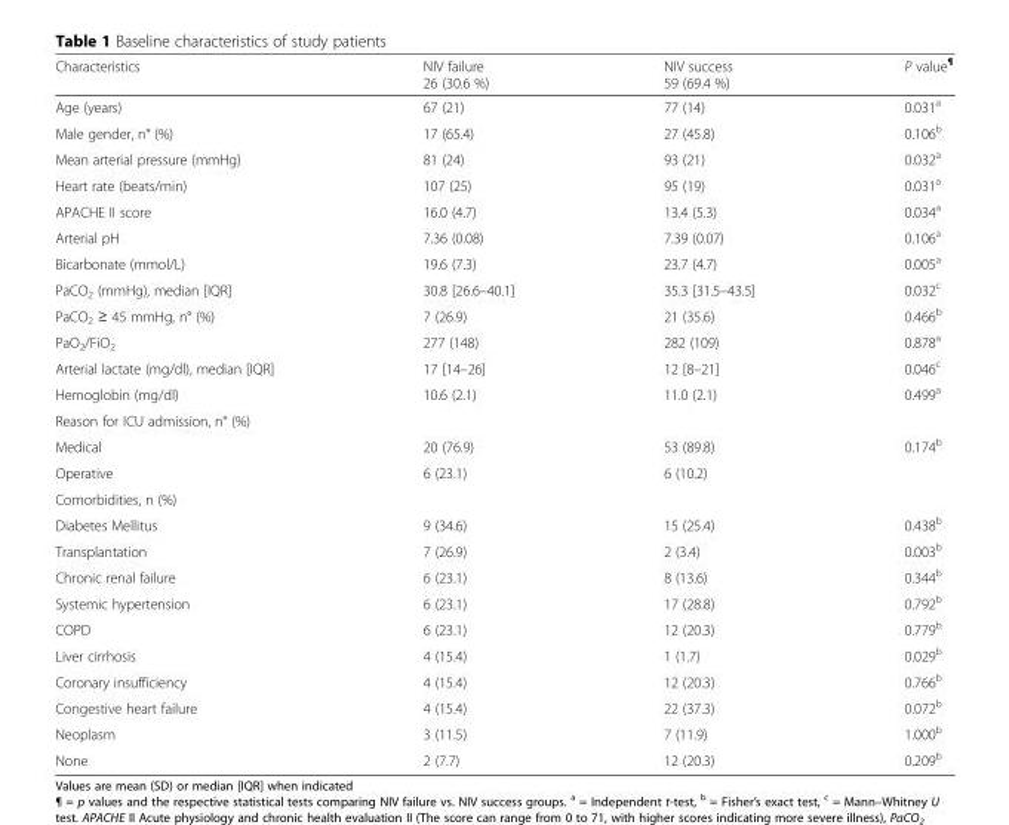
<table><thead><tr><td>Characteristics</td><td>NIV failure 26 (30.6 %)</td><td>NIV success 59 (69.4 %)</td><td>P value<sup>¶</sup></td></tr></thead><tbody><tr><td>Age (years)</td><td>67 (21)</td><td>77 (14)</td><td>0.031<sup>a</sup></td></tr><tr><td>Male gender, n° (%)</td><td>17 (65.4)</td><td>27 (45.8)</td><td>0.106<sup>b</sup></td></tr><tr><td>Mean arterial pressure (mmHg)</td><td>81 (24)</td><td>93 (21)</td><td>0.032<sup>a</sup></td></tr><tr><td>Heart rate (beats/min)</td><td>107 (25)</td><td>95 (19)</td><td>0.031<sup>a</sup></td></tr><tr><td>APACHE II score</td><td>16.0 (4.7)</td><td>13.4 (5.3)</td><td>0.034<sup>a</sup></td></tr><tr><td>Arterial pH</td><td>7.36 (0.08)</td><td>7.39 (0.07)</td><td>0.106<sup>a</sup></td></tr><tr><td>Bicarbonate (mmol/L)</td><td>19.6 (7.3)</td><td>23.7 (4.7)</td><td>0.005<sup>a</sup></td></tr><tr><td>PaCO<sub>2</sub> (mmHg), median [IQR]</td><td>30.8 [26.6–40.1]</td><td>35.3 [31.5–43.5]</td><td>0.032<sup>c</sup></td></tr><tr><td>PaCO<sub>2</sub> ≥ 45 mmHg, n° (%)</td><td>7 (26.9)</td><td>21 (35.6)</td><td>0.466<sup>b</sup></td></tr><tr><td>PaO<sub>2</sub>/FiO<sub>2</sub></td><td>277 (148)</td><td>282 (109)</td><td>0.878<sup>a</sup></td></tr><tr><td>Arterial lactate (mg/dl), median [IQR]</td><td>17 [14–26]</td><td>12 [8–21]</td><td>0.046<sup>c</sup></td></tr><tr><td>Hemoglobin (mg/dl)</td><td>10.6 (2.1)</td><td>11.0 (2.1)</td><td>0.499<sup>a</sup></td></tr><tr><td colspan="4">Reason for ICU admission, n° (%)</td></tr><tr><td>Medical</td><td>20 (76.9)</td><td>53 (89.8)</td><td>0.174<sup>b</sup></td></tr><tr><td>Operative</td><td>6 (23.1)</td><td>6 (10.2)</td><td></td></tr><tr><td colspan="4">Comorbidities, n (%)</td></tr><tr><td>Diabetes Mellitus</td><td>9 (34.6)</td><td>15 (25.4)</td><td>0.438<sup>b</sup></td></tr><tr><td>Transplantation</td><td>7 (26.9)</td><td>2 (3.4)</td><td>0.003<sup>b</sup></td></tr><tr><td>Chronic renal failure</td><td>6 (23.1)</td><td>8 (13.6)</td><td>0.344<sup>b</sup></td></tr><tr><td>Systemic hypertension</td><td>6 (23.1)</td><td>17 (28.8)</td><td>0.792<sup>b</sup></td></tr><tr><td>COPD</td><td>6 (23.1)</td><td>12 (20.3)</td><td>0.779<sup>b</sup></td></tr><tr><td>Liver cirrhosis</td><td>4 (15.4)</td><td>1 (1.7)</td><td>0.029<sup>b</sup></td></tr><tr><td>Coronary insufficiency</td><td>4 (15.4)</td><td>12 (20.3)</td><td>0.766<sup>b</sup></td></tr><tr><td>Congestive heart failure</td><td>4 (15.4)</td><td>22 (37.3)</td><td>0.072<sup>b</sup></td></tr><tr><td>Neoplasm</td><td>3 (11.5)</td><td>7 (11.9)</td><td>1.000<sup>b</sup></td></tr><tr><td>None</td><td>2 (7.7)</td><td>12 (20.3)</td><td>0.209<sup>b</sup></td></tr></tbody></table>